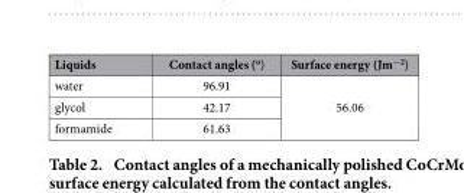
<table><thead><tr><td>Liquids</td><td>Contact angles (<sup>o</sup>)</td><td>Surface energy (Jm<sup>−2</sup>)</td></tr></thead><tbody><tr><td>water</td><td>96.91</td><td rowspan="2">56.06</td></tr><tr><td>glycol</td><td>42.17</td></tr><tr><td>formamide</td><td>61.63</td><td></td></tr></tbody></table>